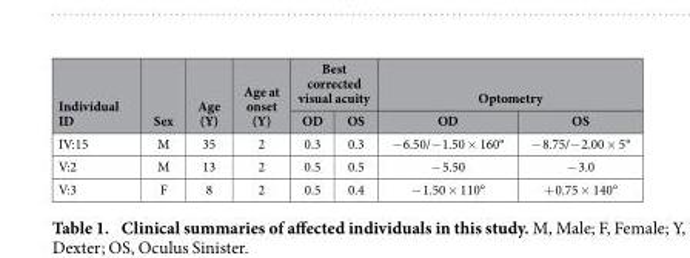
<table><thead><tr><td rowspan="2">Individual ID</td><td rowspan="2">Sex</td><td rowspan="2">Age (Y)</td><td rowspan="2">Age at onset (Y)</td><td colspan="2">Best corrected visual acuity</td><td colspan="2">Optometry</td></tr><tr><td>OD</td><td>OS</td><td>OD</td><td>OS</td></tr></thead><tbody><tr><td>IV:15</td><td>M</td><td>35</td><td>2</td><td>0.3</td><td>0.3</td><td>− 6.50/− 1.50 × 160°</td><td>− 8.75/− 2.00 × 5°</td></tr><tr><td>V:2</td><td>M</td><td>13</td><td>2</td><td>0.5</td><td>0.5</td><td>− 5.50</td><td>− 3.0</td></tr><tr><td>V:3</td><td>F</td><td>8</td><td>2</td><td>0.5</td><td>0.4</td><td>− 1.50 × 110°</td><td>+ 0.75 × 140°</td></tr></tbody></table>